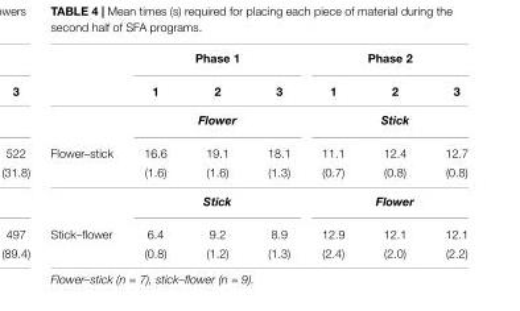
<table><thead><tr><td rowspan="2"></td><td colspan="3">Phase 1</td><td colspan="3">Phase 2</td></tr><tr><td>1</td><td>2</td><td>3</td><td>1</td><td>2</td><td>3</td></tr></thead><tbody><tr><td></td><td colspan="3">Flower</td><td colspan="3">Stick</td></tr><tr><td rowspan="3">Flower–stick</td><td>16.6</td><td>19.1</td><td>18.1</td><td>11.1</td><td>12.4</td><td>12.7</td></tr><tr><td>(1.6)</td><td>(1.6)</td><td>(1.3)</td><td>(0.7)</td><td>(0.8)</td><td>(0.8)</td></tr><tr><td colspan="3">Stick</td><td colspan="3">Flower</td></tr><tr><td rowspan="2">Stick–flower</td><td>6.4</td><td>9.2</td><td>8.9</td><td>12.9</td><td>12.1</td><td>12.1</td></tr><tr><td>(0.8)</td><td>(1.2)</td><td>(1.3)</td><td>(2.4)</td><td>(2.0)</td><td>(2.2)</td></tr></tbody></table>